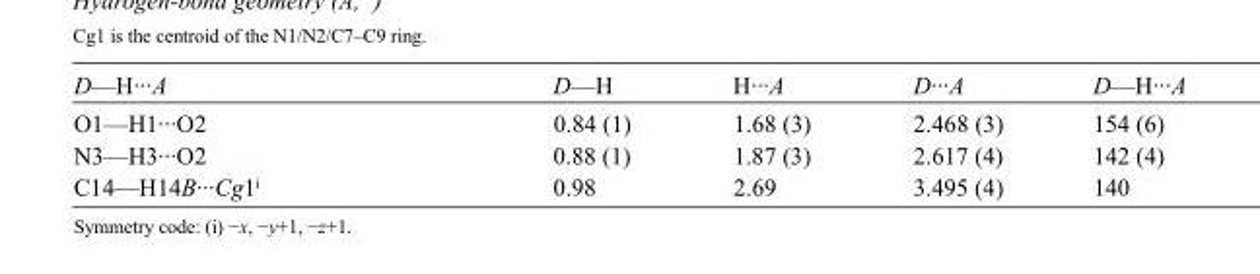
<table><tbody><tr><td>D—H···A</td><td>D—H</td><td>H···A</td><td>D···A</td><td>D—H···A</td></tr><tr><td>O1—H1···O2</td><td>0.84 (1)</td><td>1.68 (3)</td><td>2.468 (3)</td><td>154 (6)</td></tr><tr><td>N3—H3···O2</td><td>0.88 (1)</td><td>1.87 (3)</td><td>2.617 (4)</td><td>142 (4)</td></tr><tr><td>C14—H14B···Cg1<sup>i</sup></td><td>0.98</td><td>2.69</td><td>3.495 (4)</td><td>140</td></tr></tbody></table>